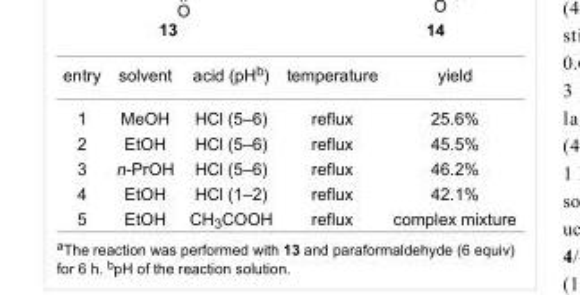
<table><tbody><tr><td>entry</td><td>solvent</td><td>acid (pH<sup>b</sup>)</td><td>temperature</td><td>yield</td></tr><tr><td>1</td><td>MeOH</td><td>HCl (5–6)</td><td>reflux</td><td>25.6%</td></tr><tr><td>2</td><td>EtOH</td><td>HCl (5–6)</td><td>reflux</td><td>45.5%</td></tr><tr><td>3</td><td>n-PrOH</td><td>HCl (5–6)</td><td>reflux</td><td>46.2%</td></tr><tr><td>4</td><td>EtOH</td><td>HCl (1–2)</td><td>reflux</td><td>42.1%</td></tr><tr><td>5</td><td>EtOH</td><td>CH<sub>3</sub>COOH</td><td>reflux</td><td>complex mixture</td></tr></tbody></table>